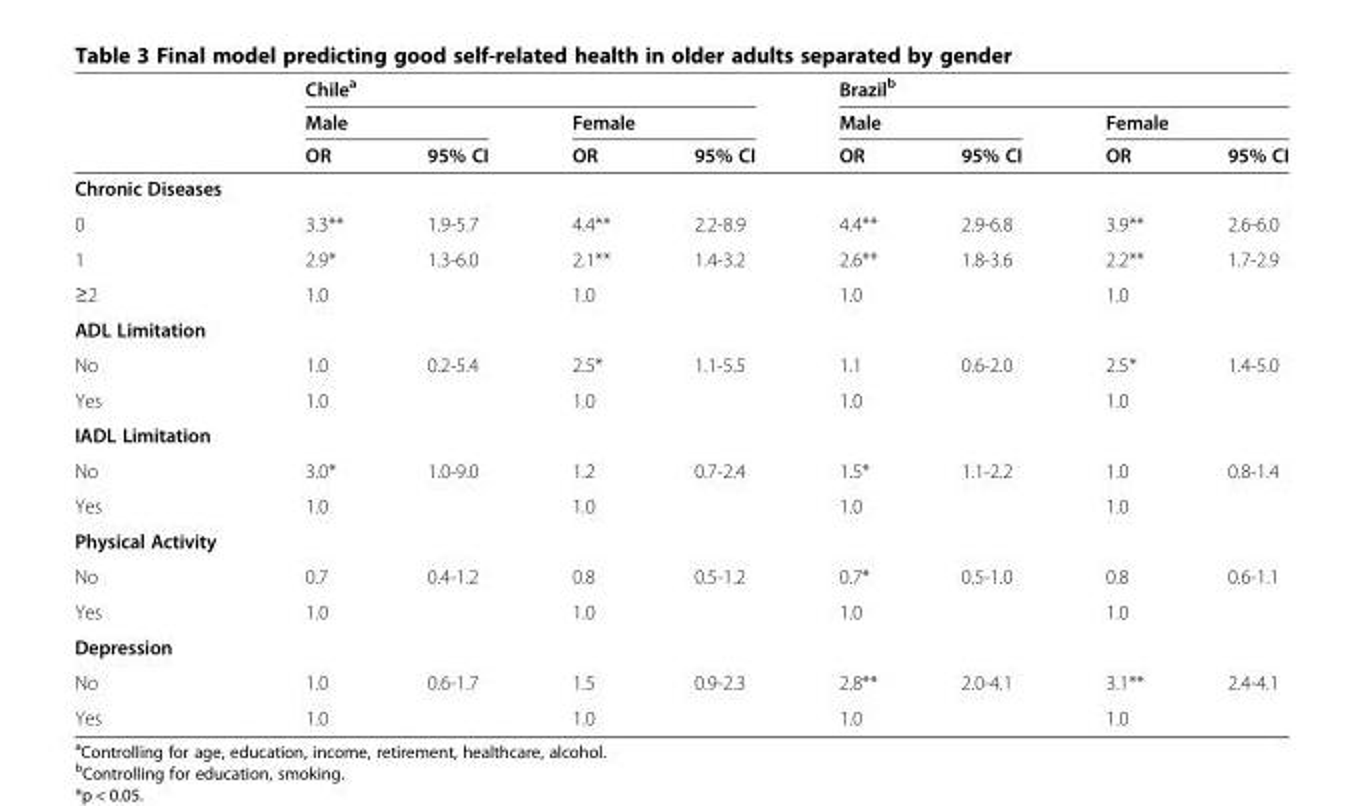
<table><thead><tr><td rowspan="3"></td><td colspan="4">Chile<sup>a</sup></td><td colspan="4">Brazil<sup>b</sup></td></tr><tr><td colspan="2">Male</td><td colspan="2">Female</td><td colspan="2">Male</td><td colspan="2">Female</td></tr><tr><td>OR</td><td>95% CI</td><td>OR</td><td>95% CI</td><td>OR</td><td>95% CI</td><td>OR</td><td>95% CI</td></tr></thead><tbody><tr><td colspan="9">Chronic Diseases</td></tr><tr><td>0</td><td>3.3**</td><td>1.9-5.7</td><td>4.4**</td><td>2.2-8.9</td><td>4.4**</td><td>2.9-6.8</td><td>3.9**</td><td>2.6-6.0</td></tr><tr><td>1</td><td>2.9*</td><td>1.3-6.0</td><td>2.1**</td><td>1.4-3.2</td><td>2.6**</td><td>1.8-3.6</td><td>2.2**</td><td>1.7-2.9</td></tr><tr><td>≥2</td><td>1.0</td><td></td><td>1.0</td><td></td><td>1.0</td><td></td><td>1.0</td><td></td></tr><tr><td colspan="9">ADL Limitation</td></tr><tr><td>No</td><td>1.0</td><td>0.2-5.4</td><td>2.5*</td><td>1.1-5.5</td><td>1.1</td><td>0.6-2.0</td><td>2.5*</td><td>1.4-5.0</td></tr><tr><td>Yes</td><td>1.0</td><td></td><td>1.0</td><td></td><td>1.0</td><td></td><td>1.0</td><td></td></tr><tr><td colspan="9">IADL Limitation</td></tr><tr><td>No</td><td>3.0*</td><td>1.0-9.0</td><td>1.2</td><td>0.7-2.4</td><td>1.5*</td><td>1.1-2.2</td><td>1.0</td><td>0.8-1.4</td></tr><tr><td>Yes</td><td>1.0</td><td></td><td>1.0</td><td></td><td>1.0</td><td></td><td>1.0</td><td></td></tr><tr><td colspan="9">Physical Activity</td></tr><tr><td>No</td><td>0.7</td><td>0.4-1.2</td><td>0.8</td><td>0.5-1.2</td><td>0.7*</td><td>0.5-1.0</td><td>0.8</td><td>0.6-1.1</td></tr><tr><td>Yes</td><td>1.0</td><td></td><td>1.0</td><td></td><td>1.0</td><td></td><td>1.0</td><td></td></tr><tr><td colspan="9">Depression</td></tr><tr><td>No</td><td>1.0</td><td>0.6-1.7</td><td>1.5</td><td>0.9-2.3</td><td>2.8**</td><td>2.0-4.1</td><td>3.1**</td><td>2.4-4.1</td></tr><tr><td>Yes</td><td>1.0</td><td></td><td>1.0</td><td></td><td>1.0</td><td></td><td>1.0</td><td></td></tr></tbody></table>